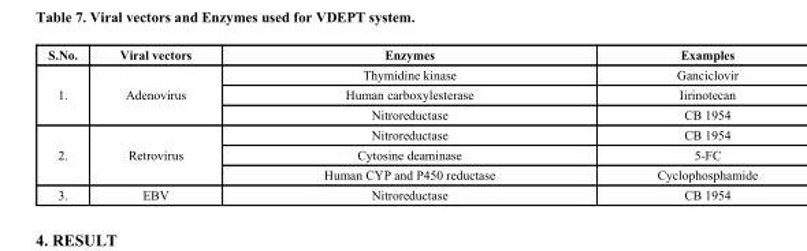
<table><thead><tr><td>S.No.</td><td>Viral vectors</td><td>Enzymes</td><td>Examples</td></tr></thead><tbody><tr><td rowspan="3">1.</td><td rowspan="3">Adenovirus</td><td>Thymidine kinase</td><td>Ganciclovir</td></tr><tr><td>Human carboxylesterase</td><td>Iirinotecan</td></tr><tr><td>Nitroreductase</td><td>CB 1954</td></tr><tr><td rowspan="3">2.</td><td rowspan="3">Retrovirus</td><td>Nitroreductase</td><td>CB 1954</td></tr><tr><td>Cytosine deaminase</td><td>5-FC</td></tr><tr><td>Human CYP and P450 reductase</td><td>Cyclophosphamide</td></tr><tr><td>3.</td><td>EBV</td><td>Nitroreductase</td><td>CB 1954</td></tr></tbody></table>